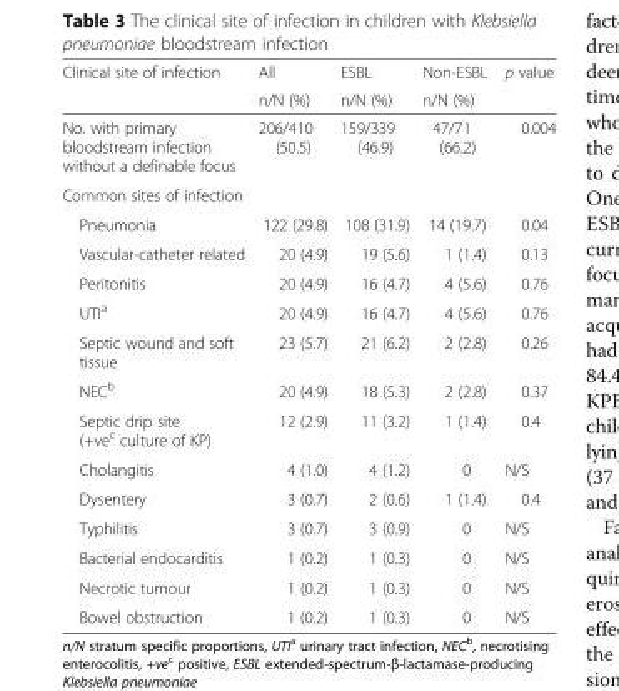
<table><thead><tr><td rowspan="2">Clinical site of infection</td><td rowspan="2">All n/N (%)</td><td rowspan="2">ESBL n/N (%)</td><td rowspan="2">Non-ESBL n/N (%)</td><td rowspan="2">p value</td></tr><tr></tr></thead><tbody><tr><td>No. with primary bloodstream infection without a definable focus</td><td>206/410 (50.5)</td><td>159/339 (46.9)</td><td>47/71 (66.2)</td><td>0.004</td></tr><tr><td colspan="5">Common sites of infection</td></tr><tr><td>Pneumonia</td><td>122 (29.8)</td><td>108 (31.9)</td><td>14 (19.7)</td><td>0.04</td></tr><tr><td>Vascular-catheter related</td><td>20 (4.9)</td><td>19 (5.6)</td><td>1 (1.4)</td><td>0.13</td></tr><tr><td>Peritonitis</td><td>20 (4.9)</td><td>16 (4.7)</td><td>4 (5.6)</td><td>0.76</td></tr><tr><td>UTI<sup>a</sup></td><td>20 (4.9)</td><td>16 (4.7)</td><td>4 (5.6)</td><td>0.76</td></tr><tr><td>Septic wound and soft tissue</td><td>23 (5.7)</td><td>21 (6.2)</td><td>2 (2.8)</td><td>0.26</td></tr><tr><td>NEC<sup>b</sup></td><td>20 (4.9)</td><td>18 (5.3)</td><td>2 (2.8)</td><td>0.37</td></tr><tr><td>Septic drip site (+ve<sup>c</sup> culture of KP)</td><td>12 (2.9)</td><td>11 (3.2)</td><td>1 (1.4)</td><td>0.4</td></tr><tr><td>Cholangitis</td><td>4 (1.0)</td><td>4 (1.2)</td><td>0</td><td>N/S</td></tr><tr><td>Dysentery</td><td>3 (0.7)</td><td>2 (0.6)</td><td>1 (1.4)</td><td>0.4</td></tr><tr><td>Typhilitis</td><td>3 (0.7)</td><td>3 (0.9)</td><td>0</td><td>N/S</td></tr><tr><td>Bacterial endocarditis</td><td>1 (0.2)</td><td>1 (0.3)</td><td>0</td><td>N/S</td></tr><tr><td>Necrotic tumour</td><td>1 (0.2)</td><td>1 (0.3)</td><td>0</td><td>N/S</td></tr><tr><td>Bowel obstruction</td><td>1 (0.2)</td><td>1 (0.3)</td><td>0</td><td>N/S</td></tr></tbody></table>